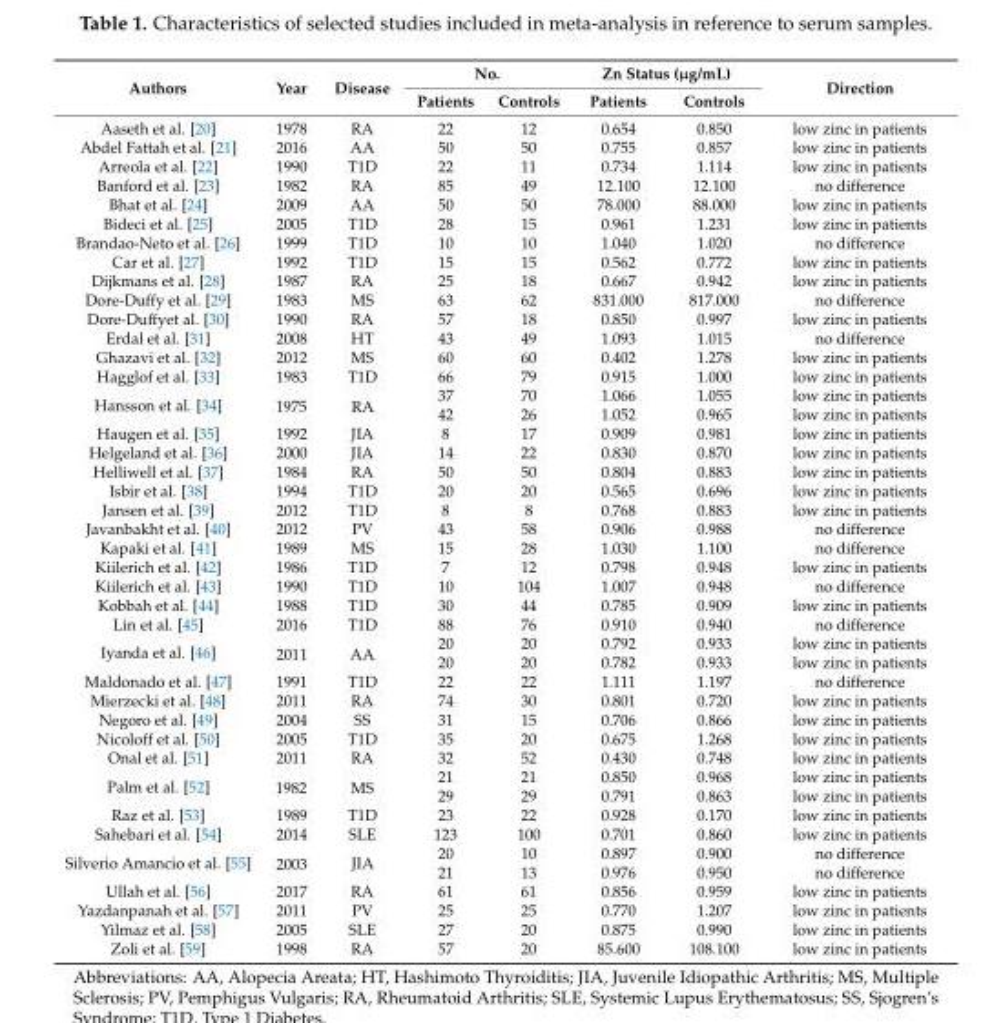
<table><thead><tr><td rowspan="2">Authors</td><td rowspan="2">Year</td><td rowspan="2">Disease</td><td colspan="2">No.</td><td colspan="2">Zn Status (µg/mL)</td><td rowspan="2">Direction</td></tr><tr><td>Patients</td><td>Controls</td><td>Patients</td><td>Controls</td></tr></thead><tbody><tr><td>Aaseth et al. [20]</td><td>1978</td><td>RA</td><td>22</td><td>12</td><td>0.654</td><td>0.850</td><td>low zinc in patients</td></tr><tr><td>Abdel Fattah et al. [21]</td><td>2016</td><td>AA</td><td>50</td><td>50</td><td>0.755</td><td>0.857</td><td>low zinc in patients</td></tr><tr><td>Arreola et al. [22]</td><td>1990</td><td>T1D</td><td>22</td><td>11</td><td>0.734</td><td>1.114</td><td>low zinc in patients</td></tr><tr><td>Banford et al. [23]</td><td>1982</td><td>RA</td><td>85</td><td>49</td><td>12.100</td><td>12.100</td><td>no difference</td></tr><tr><td>Bhat et al. [24]</td><td>2009</td><td>AA</td><td>50</td><td>50</td><td>78.000</td><td>88.000</td><td>low zinc in patients</td></tr><tr><td>Bideci et al. [25]</td><td>2005</td><td>T1D</td><td>28</td><td>15</td><td>0.961</td><td>1.231</td><td>low zinc in patients</td></tr><tr><td>Brandao-Neto et al. [26]</td><td>1999</td><td>T1D</td><td>10</td><td>10</td><td>1.040</td><td>1.020</td><td>no difference</td></tr><tr><td>Car et al. [27]</td><td>1992</td><td>T1D</td><td>15</td><td>15</td><td>0.562</td><td>0.772</td><td>low zinc in patients</td></tr><tr><td>Dijkmans et al. [28]</td><td>1987</td><td>RA</td><td>25</td><td>18</td><td>0.667</td><td>0.942</td><td>low zinc in patients</td></tr><tr><td>Dore-Duffy et al. [29]</td><td>1983</td><td>MS</td><td>63</td><td>62</td><td>831.000</td><td>817.000</td><td>no difference</td></tr><tr><td>Dore-Duffyet al. [30]</td><td>1990</td><td>RA</td><td>57</td><td>18</td><td>0.850</td><td>0.997</td><td>low zinc in patients</td></tr><tr><td>Erdal et al. [31]</td><td>2008</td><td>HT</td><td>43</td><td>49</td><td>1.093</td><td>1.015</td><td>no difference</td></tr><tr><td>Ghazavi et al. [32]</td><td>2012</td><td>MS</td><td>60</td><td>60</td><td>0.402</td><td>1.278</td><td>low zinc in patients</td></tr><tr><td>Hagglof et al. [33]</td><td>1983</td><td>T1D</td><td>66</td><td>79</td><td>0.915</td><td>1.000</td><td>low zinc in patients</td></tr><tr><td rowspan="2">Hansson et al. [34]</td><td rowspan="2">1975</td><td rowspan="2">RA</td><td>37</td><td>70</td><td>1.066</td><td>1.055</td><td>low zinc in patients</td></tr><tr><td>42</td><td>26</td><td>1.052</td><td>0.965</td><td>low zinc in patients</td></tr><tr><td>Haugen et al. [35]</td><td>1992</td><td>JIA</td><td>8</td><td>17</td><td>0.909</td><td>0.981</td><td>low zinc in patients</td></tr><tr><td>Helgeland et al. [36]</td><td>2000</td><td>JIA</td><td>14</td><td>22</td><td>0.830</td><td>0.870</td><td>low zinc in patients</td></tr><tr><td>Helliwell et al. [37]</td><td>1984</td><td>RA</td><td>50</td><td>50</td><td>0.804</td><td>0.883</td><td>low zinc in patients</td></tr><tr><td>Isbir et al. [38]</td><td>1994</td><td>T1D</td><td>20</td><td>20</td><td>0.565</td><td>0.696</td><td>low zinc in patients</td></tr><tr><td>Jansen et al. [39]</td><td>2012</td><td>T1D</td><td>8</td><td>8</td><td>0.768</td><td>0.883</td><td>low zinc in patients</td></tr><tr><td>Javanbakht et al. [40]</td><td>2012</td><td>PV</td><td>43</td><td>58</td><td>0.906</td><td>0.988</td><td>no difference</td></tr><tr><td>Kapaki et al. [41]</td><td>1989</td><td>MS</td><td>15</td><td>28</td><td>1.030</td><td>1.100</td><td>no difference</td></tr><tr><td>Kiilerich et al. [42]</td><td>1986</td><td>T1D</td><td>7</td><td>12</td><td>0.798</td><td>0.948</td><td>low zinc in patients</td></tr><tr><td>Kiilerich et al. [43]</td><td>1990</td><td>T1D</td><td>10</td><td>104</td><td>1.007</td><td>0.948</td><td>no difference</td></tr><tr><td>Kobbah et al. [44]</td><td>1988</td><td>T1D</td><td>30</td><td>44</td><td>0.785</td><td>0.909</td><td>low zinc in patients</td></tr><tr><td>Lin et al. [45]</td><td>2016</td><td>T1D</td><td>88</td><td>76</td><td>0.910</td><td>0.940</td><td>no difference</td></tr><tr><td rowspan="2">Iyanda et al. [46]</td><td rowspan="2">2011</td><td rowspan="2">AA</td><td>20</td><td>20</td><td>0.792</td><td>0.933</td><td>low zinc in patients</td></tr><tr><td>20</td><td>20</td><td>0.782</td><td>0.933</td><td>low zinc in patients</td></tr><tr><td>Maldonado et al. [47]</td><td>1991</td><td>T1D</td><td>22</td><td>22</td><td>1.111</td><td>1.197</td><td>no difference</td></tr><tr><td>Mierzecki et al. [48]</td><td>2011</td><td>RA</td><td>74</td><td>30</td><td>0.801</td><td>0.720</td><td>low zinc in patients</td></tr><tr><td>Negoro et al. [49]</td><td>2004</td><td>SS</td><td>31</td><td>15</td><td>0.706</td><td>0.866</td><td>low zinc in patients</td></tr><tr><td>Nicoloff et al. [50]</td><td>2005</td><td>T1D</td><td>35</td><td>20</td><td>0.675</td><td>1.268</td><td>low zinc in patients</td></tr><tr><td>Onal et al. [51]</td><td>2011</td><td>RA</td><td>32</td><td>52</td><td>0.430</td><td>0.748</td><td>low zinc in patients</td></tr><tr><td rowspan="2">Palm et al. [52]</td><td rowspan="2">1982</td><td rowspan="2">MS</td><td>21</td><td>21</td><td>0.850</td><td>0.968</td><td>low zinc in patients</td></tr><tr><td>29</td><td>29</td><td>0.791</td><td>0.863</td><td>low zinc in patients</td></tr><tr><td>Raz et al. [53]</td><td>1989</td><td>T1D</td><td>23</td><td>22</td><td>0.928</td><td>0.170</td><td>low zinc in patients</td></tr><tr><td>Sahebari et al. [54]</td><td>2014</td><td>SLE</td><td>123</td><td>100</td><td>0.701</td><td>0.860</td><td>low zinc in patients</td></tr><tr><td rowspan="2">Silverio Amancio et al. [55]</td><td rowspan="2">2003</td><td rowspan="2">JIA</td><td>20</td><td>10</td><td>0.897</td><td>0.900</td><td>no difference</td></tr><tr><td>21</td><td>13</td><td>0.976</td><td>0.950</td><td>no difference</td></tr><tr><td>Ullah et al. [56]</td><td>2017</td><td>RA</td><td>61</td><td>61</td><td>0.856</td><td>0.959</td><td>low zinc in patients</td></tr><tr><td>Yazdanpanah et al. [57]</td><td>2011</td><td>PV</td><td>25</td><td>25</td><td>0.770</td><td>1.207</td><td>low zinc in patients</td></tr><tr><td>Yilmaz et al. [58]</td><td>2005</td><td>SLE</td><td>27</td><td>20</td><td>0.875</td><td>0.990</td><td>low zinc in patients</td></tr><tr><td>Zoli et al. [59]</td><td>1998</td><td>RA</td><td>57</td><td>20</td><td>85.600</td><td>108.100</td><td>low zinc in patients</td></tr></tbody></table>